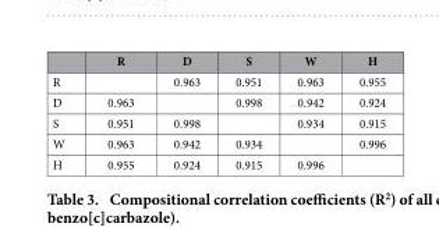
<table><thead><tr><td></td><td>R</td><td>D</td><td>S</td><td>W</td><td>H</td></tr></thead><tbody><tr><td>R</td><td></td><td>0.963</td><td>0.951</td><td>0.963</td><td>0.955</td></tr><tr><td>D</td><td>0.963</td><td></td><td>0.998</td><td>0.942</td><td>0.924</td></tr><tr><td>S</td><td>0.951</td><td>0.998</td><td></td><td>0.934</td><td>0.915</td></tr><tr><td>W</td><td>0.963</td><td>0.942</td><td>0.934</td><td></td><td>0.996</td></tr><tr><td>H</td><td>0.955</td><td>0.924</td><td>0.915</td><td>0.996</td><td></td></tr></tbody></table>